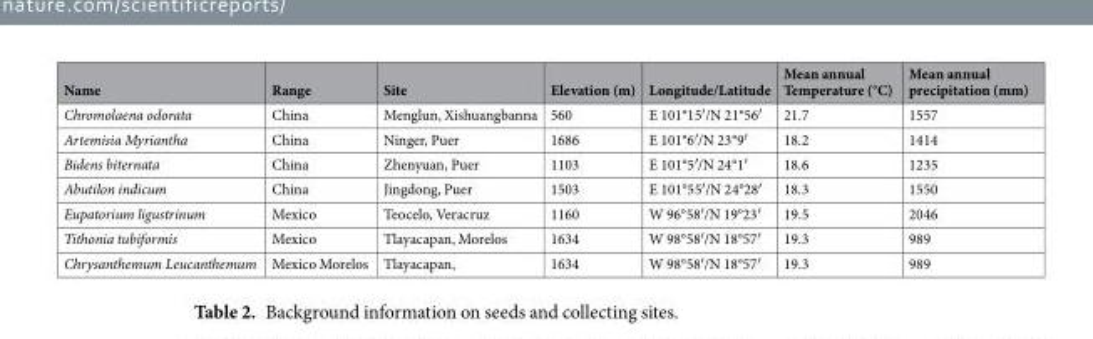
<table><thead><tr><td>Name</td><td>Range</td><td>Site</td><td>Elevation (m)</td><td>Longitude/Latitude</td><td>Mean annual Temperature (°C)</td><td>Mean annual precipitation (mm)</td></tr></thead><tbody><tr><td>Chromolaena odorata</td><td>China</td><td>Menglun, Xishuangbanna</td><td>560</td><td>E 101°15′/N 21°56′</td><td>21.7</td><td>1557</td></tr><tr><td>Artemisia Myriantha</td><td>China</td><td>Ninger, Puer</td><td>1686</td><td>E 101°6′/N 23°9′</td><td>18.2</td><td>1414</td></tr><tr><td>Bidens biternata</td><td>China</td><td>Zhenyuan, Puer</td><td>1103</td><td>E 101°5′/N 24°1′</td><td>18.6</td><td>1235</td></tr><tr><td>Abutilon indicum</td><td>China</td><td>Jingdong, Puer</td><td>1503</td><td>E 101°55′/N 24°28′</td><td>18.3</td><td>1550</td></tr><tr><td>Eupatorium ligustrinum</td><td>Mexico</td><td>Teocelo, Veracruz</td><td>1160</td><td>W 96°58′/N 19°23′</td><td>19.5</td><td>2046</td></tr><tr><td>Tithonia tubiformis</td><td>Mexico</td><td>Tlayacapan, Morelos</td><td>1634</td><td>W 98°58′/N 18°57′</td><td>19.3</td><td>989</td></tr><tr><td>Chrysanthemum Leucanthemum</td><td>Mexico Morelos</td><td>Tlayacapan,</td><td>1634</td><td>W 98°58′/N 18°57′</td><td>19.3</td><td>989</td></tr></tbody></table>